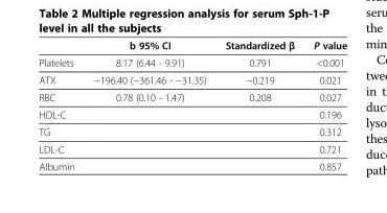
<table><thead><tr><td></td><td>b 95% CI</td><td>Standardized β</td><td>P value</td></tr></thead><tbody><tr><td>Platelets</td><td>8.17 (6.44 - 9.91)</td><td>0.791</td><td>&lt;0.001</td></tr><tr><td>ATX</td><td>−196.40 (−361.46 - −31.35)</td><td>−0.219</td><td>0.021</td></tr><tr><td>RBC</td><td>0.78 (0.10 - 1.47)</td><td>0.208</td><td>0.027</td></tr><tr><td>HDL-C</td><td></td><td></td><td>0.196</td></tr><tr><td>TG</td><td></td><td></td><td>0.312</td></tr><tr><td>LDL-C</td><td></td><td></td><td>0.721</td></tr><tr><td>Albumin</td><td></td><td></td><td>0.857</td></tr></tbody></table>